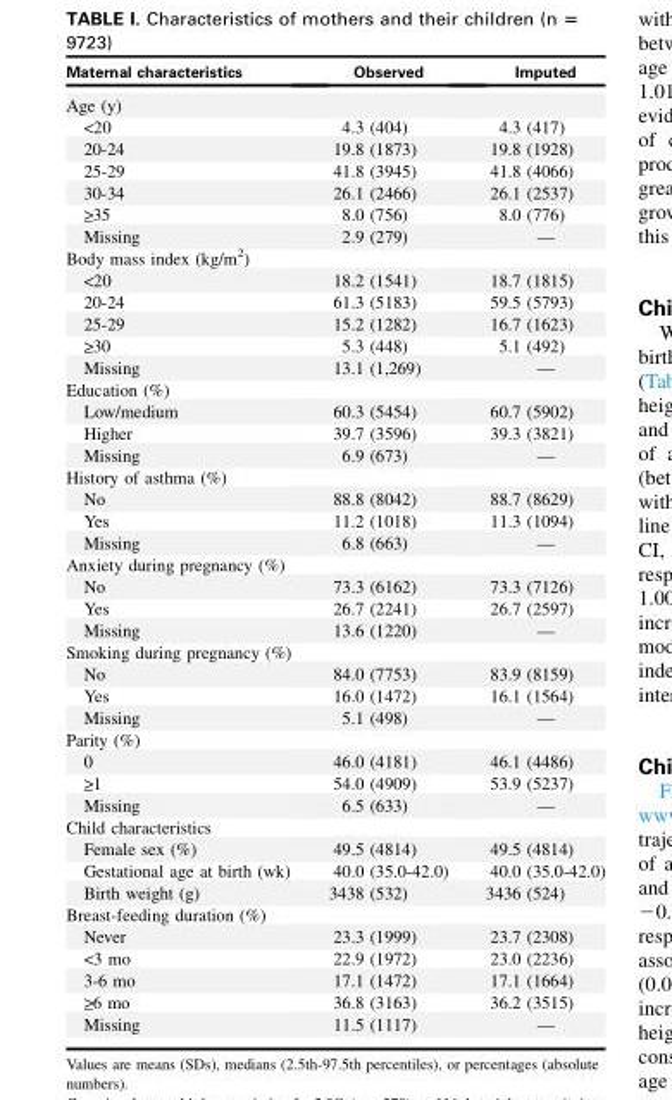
<table><thead><tr><td>Maternal characteristics</td><td>Observed</td><td>Imputed</td></tr></thead><tbody><tr><td colspan="3">Age (y)</td></tr><tr><td>&lt;20</td><td>4.3 (404)</td><td>4.3 (417)</td></tr><tr><td>20-24</td><td>19.8 (1873)</td><td>19.8 (1928)</td></tr><tr><td>25-29</td><td>41.8 (3945)</td><td>41.8 (4066)</td></tr><tr><td>30-34</td><td>26.1 (2466)</td><td>26.1 (2537)</td></tr><tr><td>&gt;_35</td><td>8.0 (756)</td><td>8.0 (776)</td></tr><tr><td>Missing</td><td>2.9 (279)</td><td>—</td></tr><tr><td colspan="3">Body mass index (kg/m<sup>2</sup>)</td></tr><tr><td>&lt;20</td><td>18.2 (1541)</td><td>18.7 (1815)</td></tr><tr><td>20-24</td><td>61.3 (5183)</td><td>59.5 (5793)</td></tr><tr><td>25-29</td><td>15.2 (1282)</td><td>16.7 (1623)</td></tr><tr><td>&gt;_30</td><td>5.3 (448)</td><td>5.1 (492)</td></tr><tr><td>Missing</td><td>13.1 (1,269)</td><td>—</td></tr><tr><td colspan="3">Education (%)</td></tr><tr><td>Low/medium</td><td>60.3 (5454)</td><td>60.7 (5902)</td></tr><tr><td>Higher</td><td>39.7 (3596)</td><td>39.3 (3821)</td></tr><tr><td>Missing</td><td>6.9 (673)</td><td>—</td></tr><tr><td colspan="3">History of asthma (%)</td></tr><tr><td>No</td><td>88.8 (8042)</td><td>88.7 (8629)</td></tr><tr><td>Yes</td><td>11.2 (1018)</td><td>11.3 (1094)</td></tr><tr><td>Missing</td><td>6.8 (663)</td><td>—</td></tr><tr><td colspan="3">Anxiety during pregnancy (%)</td></tr><tr><td>No</td><td>73.3 (6162)</td><td>73.3 (7126)</td></tr><tr><td>Yes</td><td>26.7 (2241)</td><td>26.7 (2597)</td></tr><tr><td>Missing</td><td>13.6 (1220)</td><td>—</td></tr><tr><td colspan="3">Smoking during pregnancy (%)</td></tr><tr><td>No</td><td>84.0 (7753)</td><td>83.9 (8159)</td></tr><tr><td>Yes</td><td>16.0 (1472)</td><td>16.1 (1564)</td></tr><tr><td>Missing</td><td>5.1 (498)</td><td>—</td></tr><tr><td colspan="3">Parity (%)</td></tr><tr><td>0</td><td>46.0 (4181)</td><td>46.1 (4486)</td></tr><tr><td>&gt;_1</td><td>54.0 (4909)</td><td>53.9 (5237)</td></tr><tr><td>Missing</td><td>6.5 (633)</td><td>—</td></tr><tr><td colspan="3">Child characteristics</td></tr><tr><td>Female sex (%)</td><td>49.5 (4814)</td><td>49.5 (4814)</td></tr><tr><td>Gestational age at birth (wk)</td><td>40.0 (35.0-42.0)</td><td>40.0 (35.0-42.0)</td></tr><tr><td>Birth weight (g)</td><td>3438 (532)</td><td>3436 (524)</td></tr><tr><td colspan="3">Breast-feeding duration (%)</td></tr><tr><td>Never</td><td>23.3 (1999)</td><td>23.7 (2308)</td></tr><tr><td>&lt;3 mo</td><td>22.9 (1972)</td><td>23.0 (2236)</td></tr><tr><td>3-6 mo</td><td>17.1 (1472)</td><td>17.1 (1664)</td></tr><tr><td>&gt;_6 mo</td><td>36.8 (3163)</td><td>36.2 (3515)</td></tr><tr><td>Missing</td><td>11.5 (1117)</td><td>—</td></tr></tbody></table>